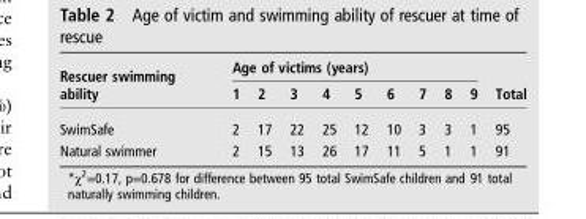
<table><thead><tr><td rowspan="2">Rescuer swimming ability</td><td colspan="9">Age of victims (years)</td><td rowspan="2">Total</td></tr><tr><td>1</td><td>2</td><td>3</td><td>4</td><td>5</td><td>6</td><td>7</td><td>8</td><td>9</td></tr></thead><tbody><tr><td>SwimSafe</td><td>2</td><td>17</td><td>22</td><td>25</td><td>12</td><td>10</td><td>3</td><td>3</td><td>1</td><td>95</td></tr><tr><td>Natural swimmer</td><td>2</td><td>15</td><td>13</td><td>26</td><td>17</td><td>11</td><td>5</td><td>1</td><td>1</td><td>91</td></tr></tbody></table>